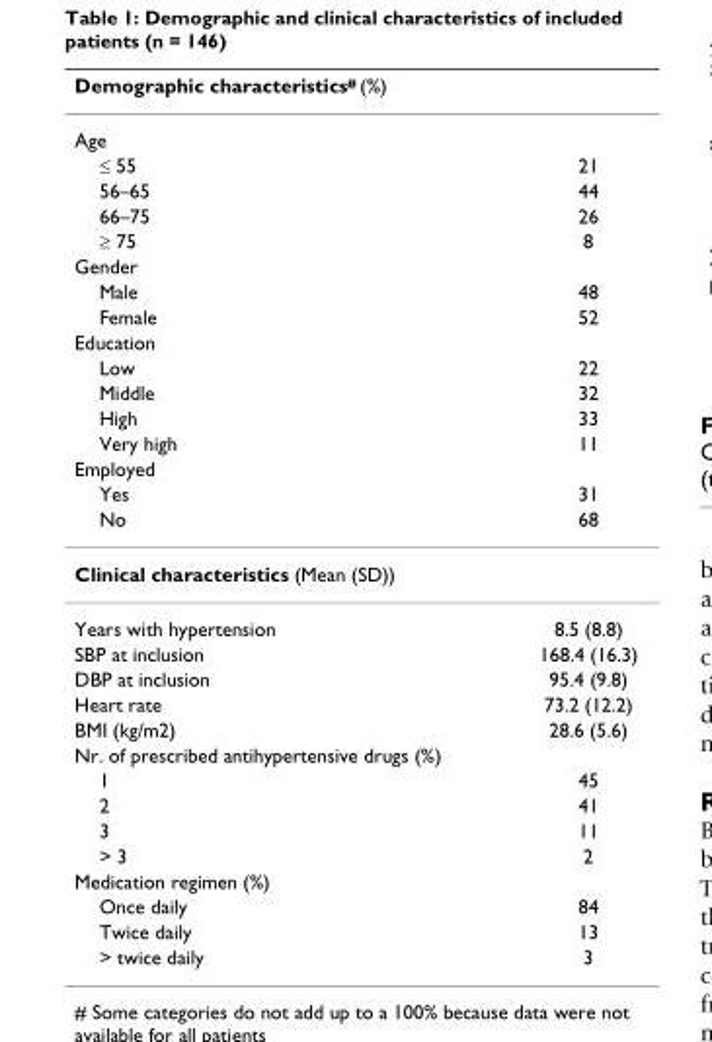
<table><thead><tr><td>Demographic characteristics# (%)</td><td></td></tr></thead><tbody><tr><td colspan="2">Age</td></tr><tr><td>≤ 55</td><td>21</td></tr><tr><td>56–65</td><td>44</td></tr><tr><td>66–75</td><td>26</td></tr><tr><td>≥ 75</td><td>8</td></tr><tr><td colspan="2">Gender</td></tr><tr><td>Male</td><td>48</td></tr><tr><td>Female</td><td>52</td></tr><tr><td colspan="2">Education</td></tr><tr><td>Low</td><td>22</td></tr><tr><td>Middle</td><td>32</td></tr><tr><td>High</td><td>33</td></tr><tr><td>Very high</td><td>11</td></tr><tr><td colspan="2">Employed</td></tr><tr><td>Yes</td><td>31</td></tr><tr><td>No</td><td>68</td></tr><tr><td colspan="2">Clinical characteristics (Mean (SD))</td></tr><tr><td>Years with hypertension</td><td>8.5 (8.8)</td></tr><tr><td>SBP at inclusion</td><td>168.4 (16.3)</td></tr><tr><td>DBP at inclusion</td><td>95.4 (9.8)</td></tr><tr><td>Heart rate</td><td>73.2 (12.2)</td></tr><tr><td>BMI (kg/m2)</td><td>28.6 (5.6)</td></tr><tr><td colspan="2">Nr. of prescribed antihypertensive drugs (%)</td></tr><tr><td>1</td><td>45</td></tr><tr><td>2</td><td>41</td></tr><tr><td>3</td><td>11</td></tr><tr><td>&gt; 3</td><td>2</td></tr><tr><td colspan="2">Medication regimen (%)</td></tr><tr><td>Once daily</td><td>84</td></tr><tr><td>Twice daily</td><td>13</td></tr><tr><td>&gt; twice daily</td><td>3</td></tr></tbody></table>